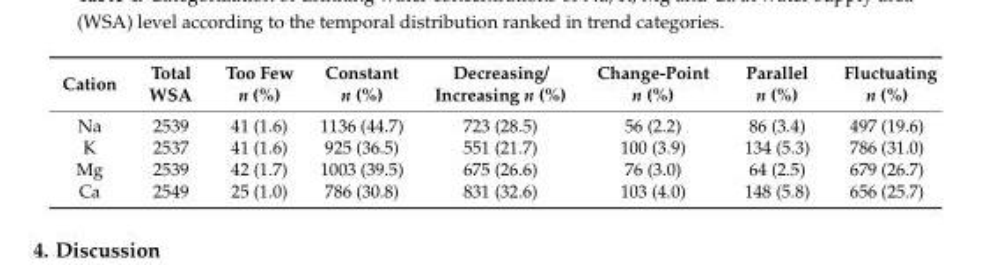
<table><thead><tr><td>Cation</td><td>Total WSA</td><td>Too Few n (%)</td><td>Constant n (%)</td><td>Decreasing/ Increasing n (%)</td><td>Change-Point n (%)</td><td>Parallel n (%)</td><td>Fluctuating n (%)</td></tr></thead><tbody><tr><td>Na</td><td>2539</td><td>41 (1.6)</td><td>1136 (44.7)</td><td>723 (28.5)</td><td>56 (2.2)</td><td>86 (3.4)</td><td>497 (19.6)</td></tr><tr><td>K</td><td>2537</td><td>41 (1.6)</td><td>925 (36.5)</td><td>551 (21.7)</td><td>100 (3.9)</td><td>134 (5.3)</td><td>786 (31.0)</td></tr><tr><td>Mg</td><td>2539</td><td>42 (1.7)</td><td>1003 (39.5)</td><td>675 (26.6)</td><td>76 (3.0)</td><td>64 (2.5)</td><td>679 (26.7)</td></tr><tr><td>Ca</td><td>2549</td><td>25 (1.0)</td><td>786 (30.8)</td><td>831 (32.6)</td><td>103 (4.0)</td><td>148 (5.8)</td><td>656 (25.7)</td></tr></tbody></table>